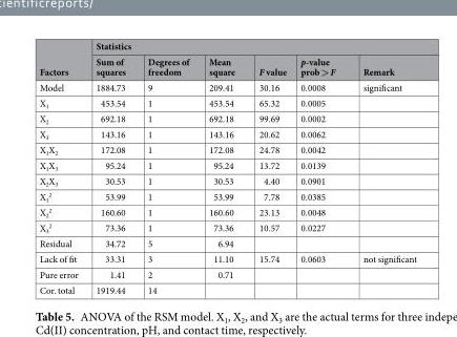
<table><thead><tr><td rowspan="2">Factors</td><td colspan="6">Statistics</td></tr><tr><td>Sum of squares</td><td>Degrees of freedom</td><td>Mean square</td><td>F value</td><td>p-value prob &gt; F</td><td>Remark</td></tr></thead><tbody><tr><td>Model</td><td>1884.73</td><td>9</td><td>209.41</td><td>30.16</td><td>0.0008</td><td>significant</td></tr><tr><td>X<sub>1</sub></td><td>453.54</td><td>1</td><td>453.54</td><td>65.32</td><td>0.0005</td><td></td></tr><tr><td>X<sub>2</sub></td><td>692.18</td><td>1</td><td>692.18</td><td>99.69</td><td>0.0002</td><td></td></tr><tr><td>X<sub>3</sub></td><td>143.16</td><td>1</td><td>143.16</td><td>20.62</td><td>0.0062</td><td></td></tr><tr><td>X<sub>1</sub>X<sub>2</sub></td><td>172.08</td><td>1</td><td>172.08</td><td>24.78</td><td>0.0042</td><td></td></tr><tr><td>X<sub>1</sub>X<sub>3</sub></td><td>95.24</td><td>1</td><td>95.24</td><td>13.72</td><td>0.0139</td><td></td></tr><tr><td>X<sub>2</sub>X<sub>3</sub></td><td>30.53</td><td>1</td><td>30.53</td><td>4.40</td><td>0.0901</td><td></td></tr><tr><td>X<sub>1</sub> <sup>2</sup></td><td>53.99</td><td>1</td><td>53.99</td><td>7.78</td><td>0.0385</td><td></td></tr><tr><td>X<sub>2</sub> <sup>2</sup></td><td>160.60</td><td>1</td><td>160.60</td><td>23.13</td><td>0.0048</td><td></td></tr><tr><td>X<sub>3</sub> <sup>2</sup></td><td>73.36</td><td>1</td><td>73.36</td><td>10.57</td><td>0.0227</td><td></td></tr><tr><td>Residual</td><td>34.72</td><td>5</td><td>6.94</td><td></td><td></td><td></td></tr><tr><td>Lack of fit</td><td>33.31</td><td>3</td><td>11.10</td><td>15.74</td><td>0.0603</td><td>not significant</td></tr><tr><td>Pure error</td><td>1.41</td><td>2</td><td>0.71</td><td></td><td></td><td></td></tr><tr><td>Cor. total</td><td>1919.44</td><td>14</td><td></td><td></td><td></td><td></td></tr></tbody></table>